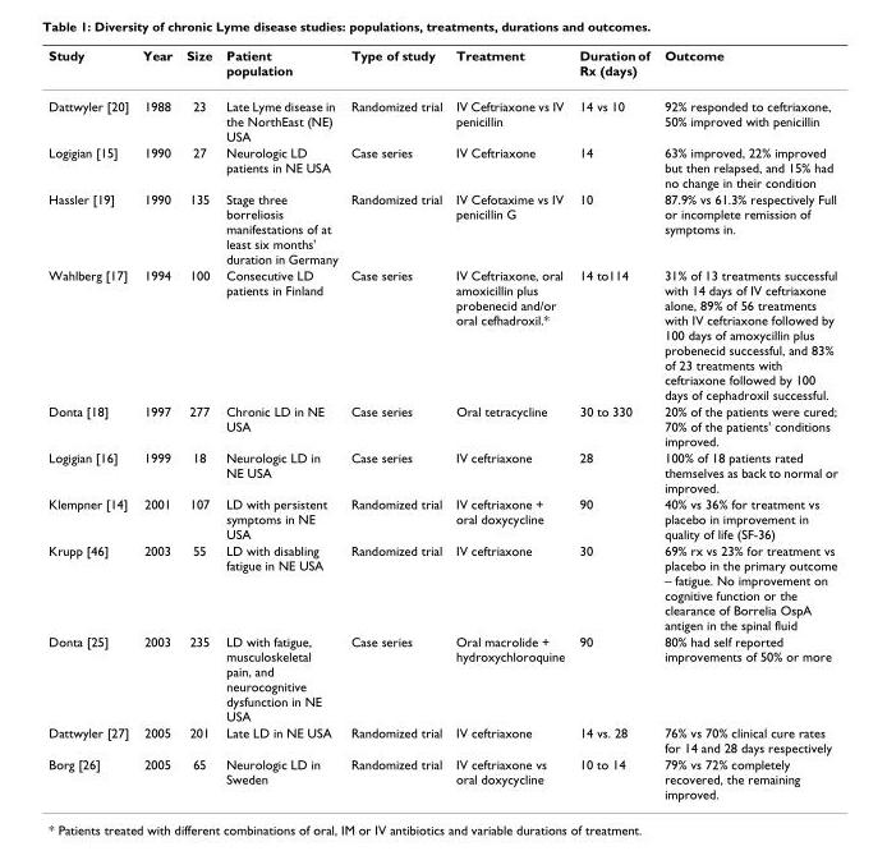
<table><thead><tr><td>Study</td><td>Year</td><td>Size</td><td>Patient population</td><td>Type of study</td><td>Treatment</td><td>Duration of Rx (days)</td><td>Outcome</td></tr></thead><tbody><tr><td>Dattwyler [20]</td><td>1988</td><td>23</td><td>Late Lyme disease in the NorthEast (NE) USA</td><td>Randomized trial</td><td>IV Ceftriaxone vs IV penicillin</td><td>14 vs 10</td><td>92% responded to ceftriaxone, 50% improved with penicillin</td></tr><tr><td>Logigian [15]</td><td>1990</td><td>27</td><td>Neurologic LD patients in NE USA</td><td>Case series</td><td>IV Ceftriaxone</td><td>14</td><td>63% improved, 22% improved but then relapsed, and 15% had no change in their condition</td></tr><tr><td>Hassler [19]</td><td>1990</td><td>135</td><td>Stage three borreliosis manifestations of at least six months&#x27; duration in Germany</td><td>Randomized trial</td><td>IV Cefotaxime vs IV penicillin G</td><td>10</td><td>87.9% vs 61.3% respectively Full or incomplete remission of symptoms in.</td></tr><tr><td>Wahlberg [17]</td><td>1994</td><td>100</td><td>Consecutive LD patients in Finland</td><td>Case series</td><td>IV Ceftriaxone, oral amoxicillin plus probenecid and/or oral cefhadroxil.*</td><td>14 to114</td><td>31% of 13 treatments successful with 14 days of IV ceftriaxone alone, 89% of 56 treatments with IV ceftriaxone followed by 100 days of amoxycillin plus probenecid successful, and 83% of 23 treatments with ceftriaxone followed by 100 days of cephadroxil successful.</td></tr><tr><td>Donta [18]</td><td>1997</td><td>277</td><td>Chronic LD in NE USA</td><td>Case series</td><td>Oral tetracycline</td><td>30 to 330</td><td>20% of the patients were cured; 70% of the patients&#x27; conditions improved.</td></tr><tr><td>Logigian [16]</td><td>1999</td><td>18</td><td>Neurologic LD in NE USA</td><td>Case series</td><td>IV ceftriaxone</td><td>28</td><td>100% of 18 patients rated themselves as back to normal or improved.</td></tr><tr><td>Klempner [14]</td><td>2001</td><td>107</td><td>LD with persistent symptoms in NE USA</td><td>Randomized trial</td><td>IV ceftriaxone + oral doxycycline</td><td>90</td><td>40% vs 36% for treatment vs placebo in improvement in quality of life (SF-36)</td></tr><tr><td>Krupp [46]</td><td>2003</td><td>55</td><td>LD with disabling fatigue in NE USA</td><td>Randomized trial</td><td>IV ceftriaxone</td><td>30</td><td>69% rx vs 23% for treatment vs placebo in the primary outcome – fatigue. No improvement on cognitive function or the clearance of Borrelia OspA antigen in the spinal fluid</td></tr><tr><td>Donta [25]</td><td>2003</td><td>235</td><td>LD with fatigue, musculoskeletal pain, and neurocognitive dysfunction in NE USA</td><td>Case series</td><td>Oral macrolide + hydroxychloroquine</td><td>90</td><td>80% had self reported improvements of 50% or more</td></tr><tr><td>Dattwyler [27]</td><td>2005</td><td>201</td><td>Late LD in NE USA</td><td>Randomized trial</td><td>IV ceftriaxone</td><td>14 vs. 28</td><td>76% vs 70% clinical cure rates for 14 and 28 days respectively</td></tr><tr><td>Borg [26]</td><td>2005</td><td>65</td><td>Neurologic LD in Sweden</td><td>Randomized trial</td><td>IV ceftriaxone vs oral doxycycline</td><td>10 to 14</td><td>79% vs 72% completely recovered, the remaining improved.</td></tr></tbody></table>